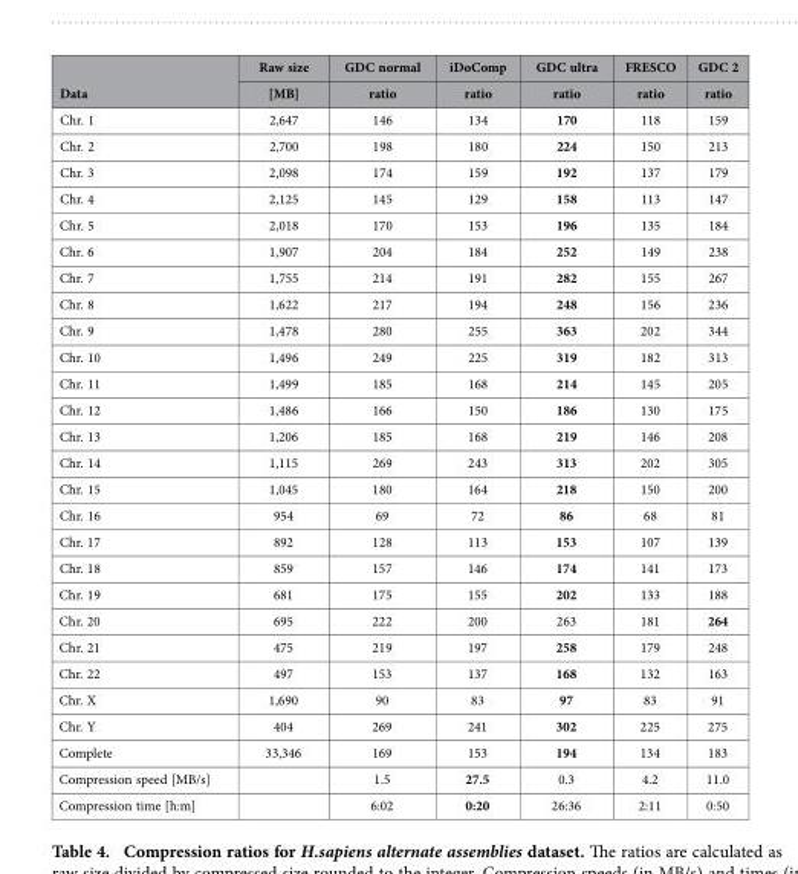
<table><thead><tr><td rowspan="2">Data</td><td rowspan="2">Raw size [MB]</td><td rowspan="2">GDC normal ratio</td><td rowspan="2">iDoComp ratio</td><td rowspan="2">GDC ultra ratio</td><td rowspan="2">FRESCO ratio</td><td rowspan="2">GDC 2 ratio</td></tr><tr></tr></thead><tbody><tr><td>Chr. 1</td><td>2,647</td><td>146</td><td>134</td><td>170</td><td>118</td><td>159</td></tr><tr><td>Chr. 2</td><td>2,700</td><td>198</td><td>180</td><td>224</td><td>150</td><td>213</td></tr><tr><td>Chr. 3</td><td>2,098</td><td>174</td><td>159</td><td>192</td><td>137</td><td>179</td></tr><tr><td>Chr. 4</td><td>2,125</td><td>145</td><td>129</td><td>158</td><td>113</td><td>147</td></tr><tr><td>Chr. 5</td><td>2,018</td><td>170</td><td>153</td><td>196</td><td>135</td><td>184</td></tr><tr><td>Chr. 6</td><td>1,907</td><td>204</td><td>184</td><td>252</td><td>149</td><td>238</td></tr><tr><td>Chr. 7</td><td>1,755</td><td>214</td><td>191</td><td>282</td><td>155</td><td>267</td></tr><tr><td>Chr. 8</td><td>1,622</td><td>217</td><td>194</td><td>248</td><td>156</td><td>236</td></tr><tr><td>Chr. 9</td><td>1,478</td><td>280</td><td>255</td><td>363</td><td>202</td><td>344</td></tr><tr><td>Chr. 10</td><td>1,496</td><td>249</td><td>225</td><td>319</td><td>182</td><td>313</td></tr><tr><td>Chr. 11</td><td>1,499</td><td>185</td><td>168</td><td>214</td><td>145</td><td>205</td></tr><tr><td>Chr. 12</td><td>1,486</td><td>166</td><td>150</td><td>186</td><td>130</td><td>175</td></tr><tr><td>Chr. 13</td><td>1,206</td><td>185</td><td>168</td><td>219</td><td>146</td><td>208</td></tr><tr><td>Chr. 14</td><td>1,115</td><td>269</td><td>243</td><td>313</td><td>202</td><td>305</td></tr><tr><td>Chr. 15</td><td>1,045</td><td>180</td><td>164</td><td>218</td><td>150</td><td>200</td></tr><tr><td>Chr. 16</td><td>954</td><td>69</td><td>72</td><td>86</td><td>68</td><td>81</td></tr><tr><td>Chr. 17</td><td>892</td><td>128</td><td>113</td><td>153</td><td>107</td><td>139</td></tr><tr><td>Chr. 18</td><td>859</td><td>157</td><td>146</td><td>174</td><td>141</td><td>173</td></tr><tr><td>Chr. 19</td><td>681</td><td>175</td><td>155</td><td>202</td><td>133</td><td>188</td></tr><tr><td>Chr. 20</td><td>695</td><td>222</td><td>200</td><td>263</td><td>181</td><td>264</td></tr><tr><td>Chr. 21</td><td>475</td><td>219</td><td>197</td><td>258</td><td>179</td><td>248</td></tr><tr><td>Chr. 22</td><td>497</td><td>153</td><td>137</td><td>168</td><td>132</td><td>163</td></tr><tr><td>Chr. X</td><td>1,690</td><td>90</td><td>83</td><td>97</td><td>83</td><td>91</td></tr><tr><td>Chr. Y</td><td>404</td><td>269</td><td>241</td><td>302</td><td>225</td><td>275</td></tr><tr><td>Complete</td><td>33,346</td><td>169</td><td>153</td><td>194</td><td>134</td><td>183</td></tr><tr><td>Compression speed [MB/s]</td><td></td><td>1.5</td><td>27.5</td><td>0.3</td><td>4.2</td><td>11.0</td></tr><tr><td>Compression time [h:m]</td><td></td><td>6:02</td><td>0:20</td><td>26:36</td><td>2:11</td><td>0:50</td></tr></tbody></table>